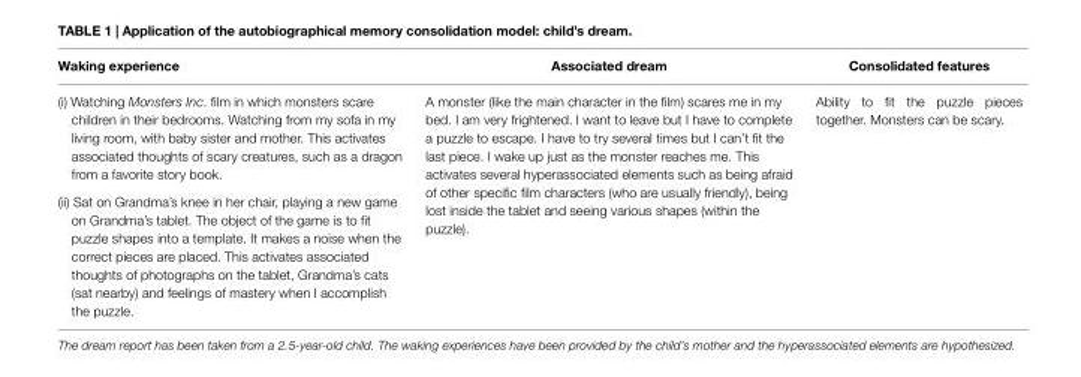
<table><thead><tr><td>Waking experience</td><td>Associated dream</td><td>Consolidated features</td></tr></thead><tbody><tr><td>(i) Watching Monsters Inc. film in which monsters scare children in their bedrooms. Watching from my sofa in my living room, with baby sister and mother. This activates associated thoughts of scary creatures, such as a dragon from a favorite story book. (ii) Sat on Grandma’s knee in her chair, playing a new game on Grandma’s tablet. The object of the game is to fit puzzle shapes into a template. It makes a noise when the correct pieces are placed. This activates associated thoughts of photographs on the tablet, Grandma’s cats (sat nearby) and feelings of mastery when I accomplish the puzzle.</td><td>A monster (like the main character in the film) scares me in my bed. I am very frightened. I want to leave but I have to complete a puzzle to escape. I have to try several times but I can’t fit the last piece. I wake up just as the monster reaches me. This activates several hyperassociated elements such as being afraid of other specific film characters (who are usually friendly), being lost inside the tablet and seeing various shapes (within the puzzle).</td><td>Ability to fit the puzzle pieces together. Monsters can be scary.</td></tr></tbody></table>